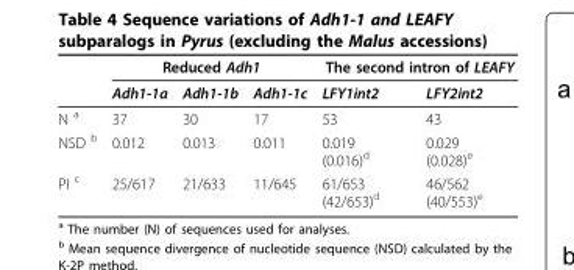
<table><thead><tr><td rowspan="2"></td><td colspan="3">Reduced Adh1</td><td colspan="2">The second intron of LEAFY</td></tr><tr><td>Adh1-1a</td><td>Adh1-1b</td><td>Adh1-1c</td><td>LFY1int2</td><td>LFY2int2</td></tr></thead><tbody><tr><td>N <sup>a</sup></td><td>37</td><td>30</td><td>17</td><td>53</td><td>43</td></tr><tr><td>NSD <sup>b</sup></td><td>0.012</td><td>0.013</td><td>0.011</td><td>0.019 (0.016)<sup>d</sup></td><td>0.029 (0.028)<sup>e</sup></td></tr><tr><td>PI <sup>c</sup></td><td>25/617</td><td>21/633</td><td>11/645</td><td>61/653 (42/653)<sup>d</sup></td><td>46/562 (40/553)<sup>e</sup></td></tr></tbody></table>